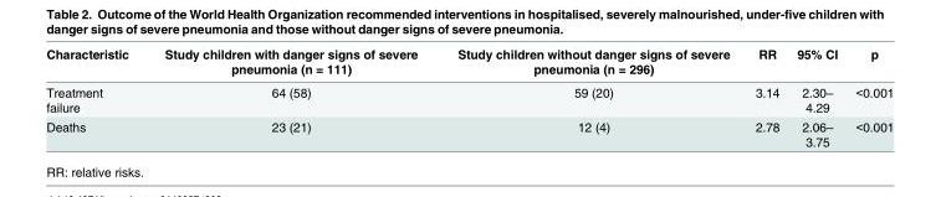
<table><thead><tr><td>Characteristic</td><td>Study children with danger signs of severe pneumonia (n = 111)</td><td>Study children without danger signs of severe pneumonia (n = 296)</td><td>RR</td><td>95% CI</td><td>p</td></tr></thead><tbody><tr><td>Treatment failure</td><td>64 (58)</td><td>59 (20)</td><td>3.14</td><td>2.30– 4.29</td><td>&lt;0.001</td></tr><tr><td>Deaths</td><td>23 (21)</td><td>12 (4)</td><td>2.78</td><td>2.06– 3.75</td><td>&lt;0.001</td></tr></tbody></table>